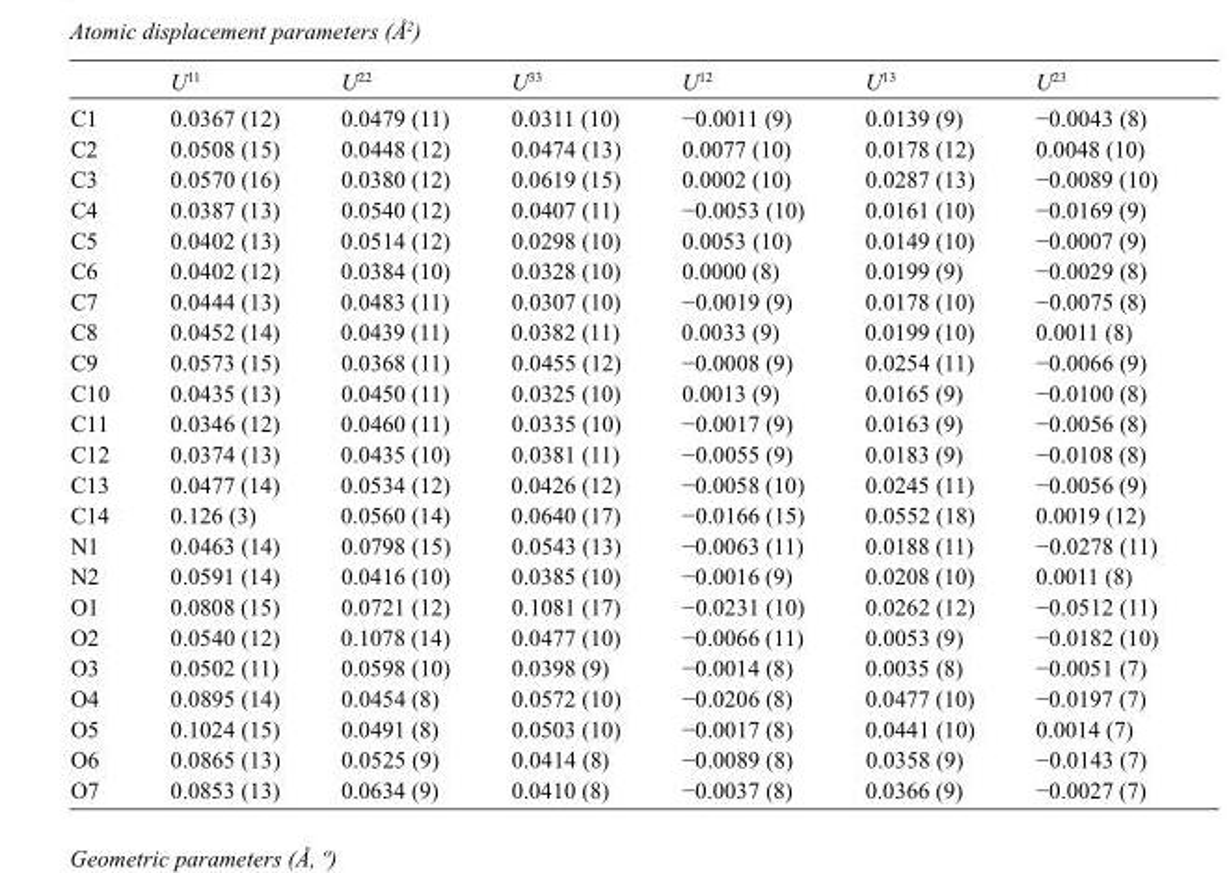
<table><thead><tr><td></td><td>U<sup>11</sup></td><td>U<sup>22</sup></td><td>U<sup>33</sup></td><td>U<sup>12</sup></td><td>U<sup>13</sup></td><td>U<sup>23</sup></td></tr></thead><tbody><tr><td>C1</td><td>0.0367 (12)</td><td>0.0479 (11)</td><td>0.0311 (10)</td><td>−0.0011 (9)</td><td>0.0139 (9)</td><td>−0.0043 (8)</td></tr><tr><td>C2</td><td>0.0508 (15)</td><td>0.0448 (12)</td><td>0.0474 (13)</td><td>0.0077 (10)</td><td>0.0178 (12)</td><td>0.0048 (10)</td></tr><tr><td>C3</td><td>0.0570 (16)</td><td>0.0380 (12)</td><td>0.0619 (15)</td><td>0.0002 (10)</td><td>0.0287 (13)</td><td>−0.0089 (10)</td></tr><tr><td>C4</td><td>0.0387 (13)</td><td>0.0540 (12)</td><td>0.0407 (11)</td><td>−0.0053 (10)</td><td>0.0161 (10)</td><td>−0.0169 (9)</td></tr><tr><td>C5</td><td>0.0402 (13)</td><td>0.0514 (12)</td><td>0.0298 (10)</td><td>0.0053 (10)</td><td>0.0149 (10)</td><td>−0.0007 (9)</td></tr><tr><td>C6</td><td>0.0402 (12)</td><td>0.0384 (10)</td><td>0.0328 (10)</td><td>0.0000 (8)</td><td>0.0199 (9)</td><td>−0.0029 (8)</td></tr><tr><td>C7</td><td>0.0444 (13)</td><td>0.0483 (11)</td><td>0.0307 (10)</td><td>−0.0019 (9)</td><td>0.0178 (10)</td><td>−0.0075 (8)</td></tr><tr><td>C8</td><td>0.0452 (14)</td><td>0.0439 (11)</td><td>0.0382 (11)</td><td>0.0033 (9)</td><td>0.0199 (10)</td><td>0.0011 (8)</td></tr><tr><td>C9</td><td>0.0573 (15)</td><td>0.0368 (11)</td><td>0.0455 (12)</td><td>−0.0008 (9)</td><td>0.0254 (11)</td><td>−0.0066 (9)</td></tr><tr><td>C10</td><td>0.0435 (13)</td><td>0.0450 (11)</td><td>0.0325 (10)</td><td>0.0013 (9)</td><td>0.0165 (9)</td><td>−0.0100 (8)</td></tr><tr><td>C11</td><td>0.0346 (12)</td><td>0.0460 (11)</td><td>0.0335 (10)</td><td>−0.0017 (9)</td><td>0.0163 (9)</td><td>−0.0056 (8)</td></tr><tr><td>C12</td><td>0.0374 (13)</td><td>0.0435 (10)</td><td>0.0381 (11)</td><td>−0.0055 (9)</td><td>0.0183 (9)</td><td>−0.0108 (8)</td></tr><tr><td>C13</td><td>0.0477 (14)</td><td>0.0534 (12)</td><td>0.0426 (12)</td><td>−0.0058 (10)</td><td>0.0245 (11)</td><td>−0.0056 (9)</td></tr><tr><td>C14</td><td>0.126 (3)</td><td>0.0560 (14)</td><td>0.0640 (17)</td><td>−0.0166 (15)</td><td>0.0552 (18)</td><td>0.0019 (12)</td></tr><tr><td>N1</td><td>0.0463 (14)</td><td>0.0798 (15)</td><td>0.0543 (13)</td><td>−0.0063 (11)</td><td>0.0188 (11)</td><td>−0.0278 (11)</td></tr><tr><td>N2</td><td>0.0591 (14)</td><td>0.0416 (10)</td><td>0.0385 (10)</td><td>−0.0016 (9)</td><td>0.0208 (10)</td><td>0.0011 (8)</td></tr><tr><td>O1</td><td>0.0808 (15)</td><td>0.0721 (12)</td><td>0.1081 (17)</td><td>−0.0231 (10)</td><td>0.0262 (12)</td><td>−0.0512 (11)</td></tr><tr><td>O2</td><td>0.0540 (12)</td><td>0.1078 (14)</td><td>0.0477 (10)</td><td>−0.0066 (11)</td><td>0.0053 (9)</td><td>−0.0182 (10)</td></tr><tr><td>O3</td><td>0.0502 (11)</td><td>0.0598 (10)</td><td>0.0398 (9)</td><td>−0.0014 (8)</td><td>0.0035 (8)</td><td>−0.0051 (7)</td></tr><tr><td>O4</td><td>0.0895 (14)</td><td>0.0454 (8)</td><td>0.0572 (10)</td><td>−0.0206 (8)</td><td>0.0477 (10)</td><td>−0.0197 (7)</td></tr><tr><td>O5</td><td>0.1024 (15)</td><td>0.0491 (8)</td><td>0.0503 (10)</td><td>−0.0017 (8)</td><td>0.0441 (10)</td><td>0.0014 (7)</td></tr><tr><td>O6</td><td>0.0865 (13)</td><td>0.0525 (9)</td><td>0.0414 (8)</td><td>−0.0089 (8)</td><td>0.0358 (9)</td><td>−0.0143 (7)</td></tr><tr><td>O7</td><td>0.0853 (13)</td><td>0.0634 (9)</td><td>0.0410 (8)</td><td>−0.0037 (8)</td><td>0.0366 (9)</td><td>−0.0027 (7)</td></tr></tbody></table>